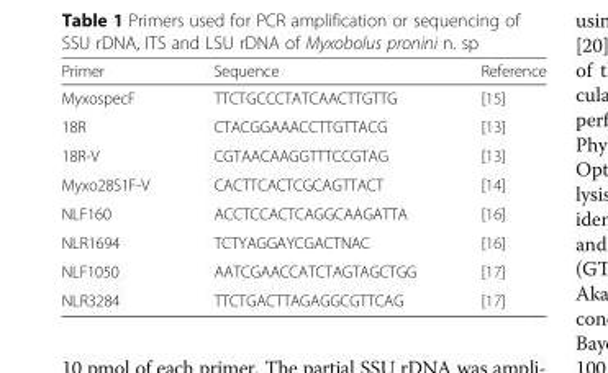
<table><thead><tr><td>Primer</td><td>Sequence</td><td>Reference</td></tr></thead><tbody><tr><td>MyxospecF</td><td>TTCTGCCCTATCAACTTGTTG</td><td>[15]</td></tr><tr><td>18R</td><td>CTACGGAAACCTTGTTACG</td><td>[13]</td></tr><tr><td>18R-V</td><td>CGTAACAAGGTTTCCGTAG</td><td>[13]</td></tr><tr><td>Myxo28S1F-V</td><td>CACTTCACTCGCAGTTACT</td><td>[14]</td></tr><tr><td>NLF160</td><td>ACCTCCACTCAGGCAAGATTA</td><td>[16]</td></tr><tr><td>NLR1694</td><td>TCTYAGGAYCGACTNAC</td><td>[16]</td></tr><tr><td>NLF1050</td><td>AATCGAACCATCTAGTAGCTGG</td><td>[17]</td></tr><tr><td>NLR3284</td><td>TTCTGACTTAGAGGCGTTCAG</td><td>[17]</td></tr></tbody></table>